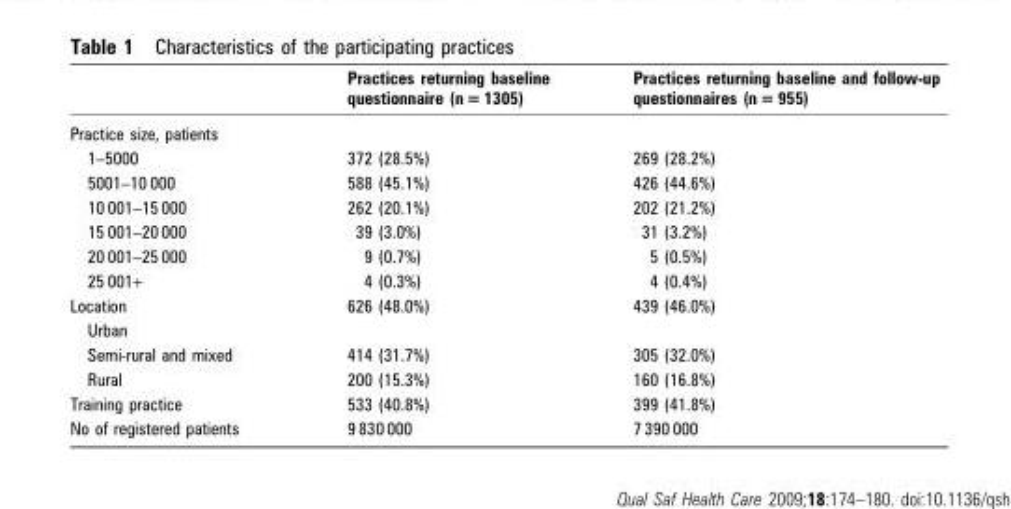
<table><thead><tr><td></td><td>Practices returning baseline questionnaire (n = 1305)</td><td>Practices returning baseline and follow-up questionnaires (n = 955)</td></tr></thead><tbody><tr><td colspan="3">Practice size, patients</td></tr><tr><td>1–5000</td><td>372 (28.5%)</td><td>269 (28.2%)</td></tr><tr><td>5001–10 000</td><td>588 (45.1%)</td><td>426 (44.6%)</td></tr><tr><td>10 001–15 000</td><td>262 (20.1%)</td><td>202 (21.2%)</td></tr><tr><td>15 001–20 000</td><td>39 (3.0%)</td><td>31 (3.2%)</td></tr><tr><td>20 001–25 000</td><td>9 (0.7%)</td><td>5 (0.5%)</td></tr><tr><td>25 001+</td><td>4 (0.3%)</td><td>4 (0.4%)</td></tr><tr><td>Location</td><td>626 (48.0%)</td><td>439 (46.0%)</td></tr><tr><td colspan="3">Urban</td></tr><tr><td>Semi-rural and mixed</td><td>414 (31.7%)</td><td>305 (32.0%)</td></tr><tr><td>Rural</td><td>200 (15.3%)</td><td>160 (16.8%)</td></tr><tr><td>Training practice</td><td>533 (40.8%)</td><td>399 (41.8%)</td></tr><tr><td>No of registered patients</td><td>9 830 000</td><td>7 390 000</td></tr></tbody></table>